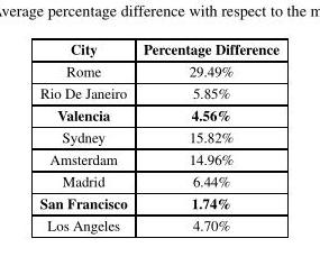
<table><thead><tr><td>City</td><td>Percentage Difference</td></tr></thead><tbody><tr><td>Rome</td><td>29.49%</td></tr><tr><td>Rio De Janeiro</td><td>5.85%</td></tr><tr><td>Valencia</td><td>4.56%</td></tr><tr><td>Sydney</td><td>15.82%</td></tr><tr><td>Amsterdam</td><td>14.96%</td></tr><tr><td>Madrid</td><td>6.44%</td></tr><tr><td>San Francisco</td><td>1.74%</td></tr><tr><td>Los Angeles</td><td>4.70%</td></tr></tbody></table>